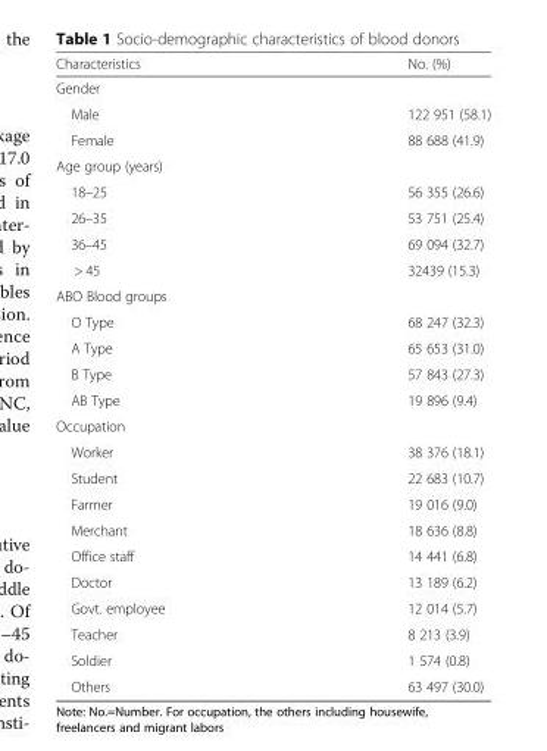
<table><thead><tr><td>Characteristics</td><td>No. (%)</td></tr></thead><tbody><tr><td colspan="2">Gender</td></tr><tr><td>Male</td><td>122 951 (58.1)</td></tr><tr><td>Female</td><td>88 688 (41.9)</td></tr><tr><td colspan="2">Age group (years)</td></tr><tr><td>18–25</td><td>56 355 (26.6)</td></tr><tr><td>26–35</td><td>53 751 (25.4)</td></tr><tr><td>36–45</td><td>69 094 (32.7)</td></tr><tr><td>&gt; 45</td><td>32439 (15.3)</td></tr><tr><td colspan="2">ABO Blood groups</td></tr><tr><td>O Type</td><td>68 247 (32.3)</td></tr><tr><td>A Type</td><td>65 653 (31.0)</td></tr><tr><td>B Type</td><td>57 843 (27.3)</td></tr><tr><td>AB Type</td><td>19 896 (9.4)</td></tr><tr><td colspan="2">Occupation</td></tr><tr><td>Worker</td><td>38 376 (18.1)</td></tr><tr><td>Student</td><td>22 683 (10.7)</td></tr><tr><td>Farmer</td><td>19 016 (9.0)</td></tr><tr><td>Merchant</td><td>18 636 (8.8)</td></tr><tr><td>Office staff</td><td>14 441 (6.8)</td></tr><tr><td>Doctor</td><td>13 189 (6.2)</td></tr><tr><td>Govt. employee</td><td>12 014 (5.7)</td></tr><tr><td>Teacher</td><td>8 213 (3.9)</td></tr><tr><td>Soldier</td><td>1 574 (0.8)</td></tr><tr><td>Others</td><td>63 497 (30.0)</td></tr></tbody></table>